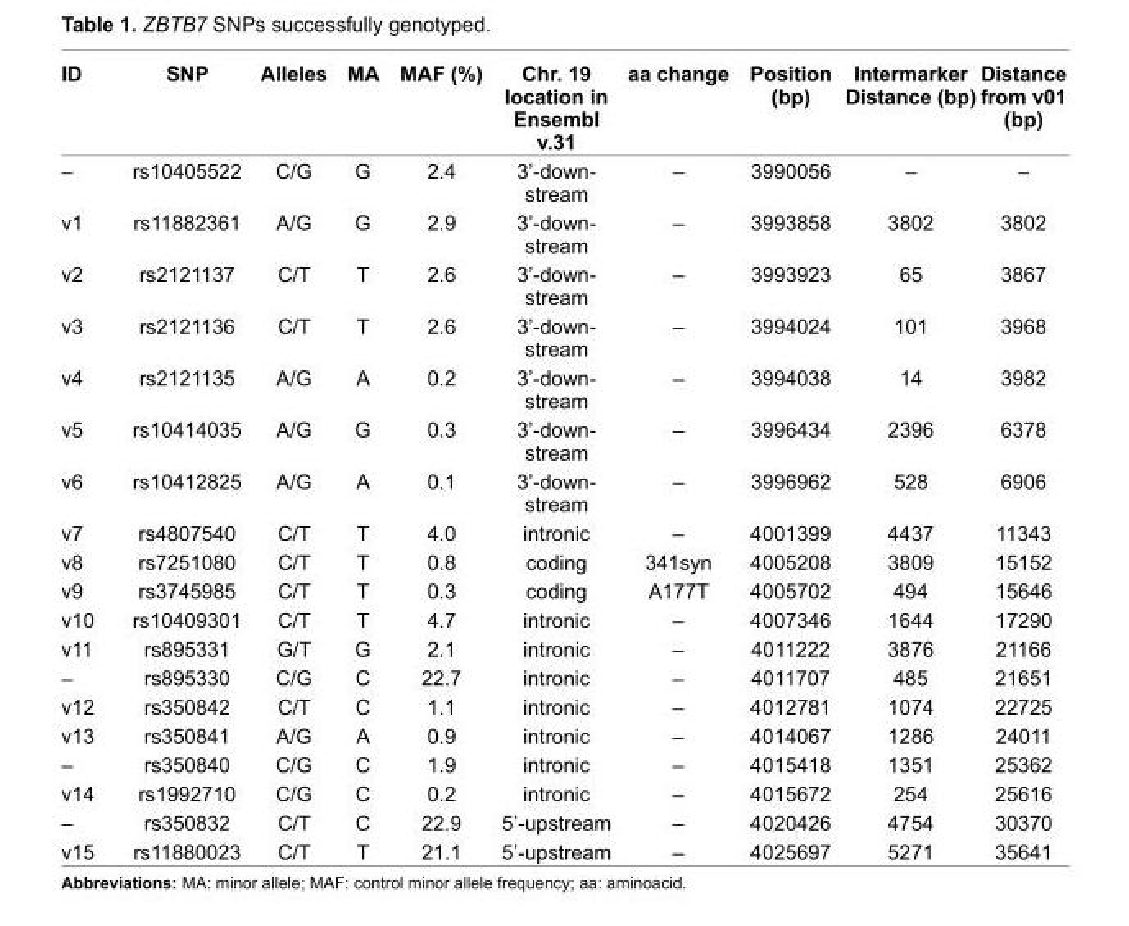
<table><thead><tr><td>ID</td><td>SNP</td><td>Alleles</td><td>MA</td><td>MAF (%)</td><td>Chr. 19 location in Ensembl v.31</td><td>aa change</td><td>Position (bp)</td><td>Intermarker Distance (bp)</td><td>Distance from v01 (bp)</td></tr></thead><tbody><tr><td>–</td><td>rs10405522</td><td>C/G</td><td>G</td><td>2.4</td><td>3’-down- stream</td><td>–</td><td>3990056</td><td>–</td><td>–</td></tr><tr><td>v1</td><td>rs11882361</td><td>A/G</td><td>G</td><td>2.9</td><td>3’-down- stream</td><td>–</td><td>3993858</td><td>3802</td><td>3802</td></tr><tr><td>v2</td><td>rs2121137</td><td>C/T</td><td>T</td><td>2.6</td><td>3’-down- stream</td><td>–</td><td>3993923</td><td>65</td><td>3867</td></tr><tr><td>v3</td><td>rs2121136</td><td>C/T</td><td>T</td><td>2.6</td><td>3’-down- stream</td><td>–</td><td>3994024</td><td>101</td><td>3968</td></tr><tr><td>v4</td><td>rs2121135</td><td>A/G</td><td>A</td><td>0.2</td><td>3’-down- stream</td><td>–</td><td>3994038</td><td>14</td><td>3982</td></tr><tr><td>v5</td><td>rs10414035</td><td>A/G</td><td>G</td><td>0.3</td><td>3’-down- stream</td><td>–</td><td>3996434</td><td>2396</td><td>6378</td></tr><tr><td>v6</td><td>rs10412825</td><td>A/G</td><td>A</td><td>0.1</td><td>3’-down- stream</td><td>–</td><td>3996962</td><td>528</td><td>6906</td></tr><tr><td>v7</td><td>rs4807540</td><td>C/T</td><td>T</td><td>4.0</td><td>intronic</td><td>–</td><td>4001399</td><td>4437</td><td>11343</td></tr><tr><td>v8</td><td>rs7251080</td><td>C/T</td><td>T</td><td>0.8</td><td>coding</td><td>341syn</td><td>4005208</td><td>3809</td><td>15152</td></tr><tr><td>v9</td><td>rs3745985</td><td>C/T</td><td>T</td><td>0.3</td><td>coding</td><td>A177T</td><td>4005702</td><td>494</td><td>15646</td></tr><tr><td>v10</td><td>rs10409301</td><td>C/T</td><td>T</td><td>4.7</td><td>intronic</td><td>–</td><td>4007346</td><td>1644</td><td>17290</td></tr><tr><td>v11</td><td>rs895331</td><td>G/T</td><td>G</td><td>2.1</td><td>intronic</td><td>–</td><td>4011222</td><td>3876</td><td>21166</td></tr><tr><td>–</td><td>rs895330</td><td>C/G</td><td>C</td><td>22.7</td><td>intronic</td><td>–</td><td>4011707</td><td>485</td><td>21651</td></tr><tr><td>v12</td><td>rs350842</td><td>C/T</td><td>C</td><td>1.1</td><td>intronic</td><td>–</td><td>4012781</td><td>1074</td><td>22725</td></tr><tr><td>v13</td><td>rs350841</td><td>A/G</td><td>A</td><td>0.9</td><td>intronic</td><td>–</td><td>4014067</td><td>1286</td><td>24011</td></tr><tr><td>–</td><td>rs350840</td><td>C/G</td><td>C</td><td>1.9</td><td>intronic</td><td>–</td><td>4015418</td><td>1351</td><td>25362</td></tr><tr><td>v14</td><td>rs1992710</td><td>C/G</td><td>C</td><td>0.2</td><td>intronic</td><td>–</td><td>4015672</td><td>254</td><td>25616</td></tr><tr><td>–</td><td>rs350832</td><td>C/T</td><td>C</td><td>22.9</td><td>5’-upstream</td><td>–</td><td>4020426</td><td>4754</td><td>30370</td></tr><tr><td>v15</td><td>rs11880023</td><td>C/T</td><td>T</td><td>21.1</td><td>5’-upstream</td><td>–</td><td>4025697</td><td>5271</td><td>35641</td></tr></tbody></table>